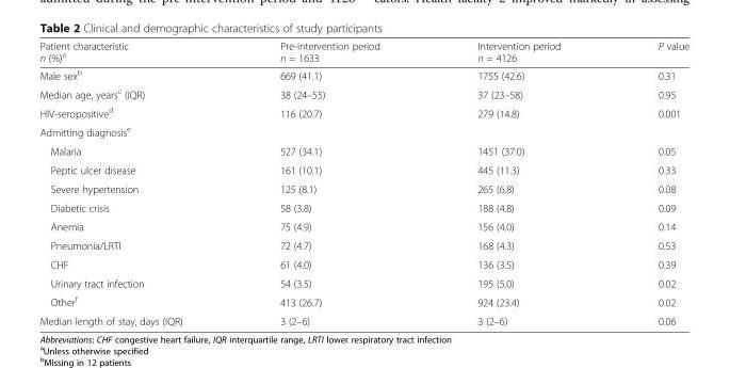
<table><thead><tr><td>Patient characteristic n (%)<sup>a</sup></td><td>Pre-intervention period n = 1633</td><td>Intervention period n = 4126</td><td>P value</td></tr></thead><tbody><tr><td>Male sex<sup>b</sup></td><td>669 (41.1)</td><td>1755 (42.6)</td><td>0.31</td></tr><tr><td>Median age, years<sup>c</sup> (IQR)</td><td>38 (24–55)</td><td>37 (23–58)</td><td>0.95</td></tr><tr><td>HIV-seropositive<sup>d</sup></td><td>116 (20.7)</td><td>279 (14.8)</td><td>0.001</td></tr><tr><td colspan="4">Admitting diagnosis<sup>e</sup></td></tr><tr><td>Malaria</td><td>527 (34.1)</td><td>1451 (37.0)</td><td>0.05</td></tr><tr><td>Peptic ulcer disease</td><td>161 (10.1)</td><td>445 (11.3)</td><td>0.33</td></tr><tr><td>Severe hypertension</td><td>125 (8.1)</td><td>265 (6.8)</td><td>0.08</td></tr><tr><td>Diabetic crisis</td><td>58 (3.8)</td><td>188 (4.8)</td><td>0.09</td></tr><tr><td>Anemia</td><td>75 (4.9)</td><td>156 (4.0)</td><td>0.14</td></tr><tr><td>Pneumonia/LRTI</td><td>72 (4.7)</td><td>168 (4.3)</td><td>0.53</td></tr><tr><td>CHF</td><td>61 (4.0)</td><td>136 (3.5)</td><td>0.39</td></tr><tr><td>Urinary tract infection</td><td>54 (3.5)</td><td>195 (5.0)</td><td>0.02</td></tr><tr><td>Other<sup>f</sup></td><td>413 (26.7)</td><td>924 (23.4)</td><td>0.02</td></tr><tr><td>Median length of stay, days (IQR)</td><td>3 (2–6)</td><td>3 (2–6)</td><td>0.06</td></tr></tbody></table>